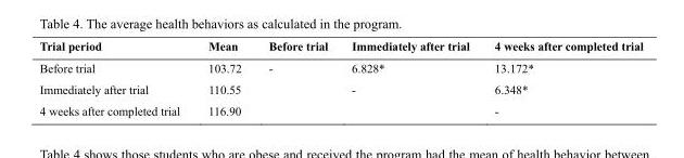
<table><thead><tr><td>Trial period</td><td>Mean</td><td>Before trial</td><td>Immediately after trial</td><td>4 weeks after completed trial</td></tr></thead><tbody><tr><td>Before trial</td><td>103.72</td><td>-</td><td>6.828*</td><td>13.172*</td></tr><tr><td>Immediately after trial</td><td>110.55</td><td></td><td>-</td><td>6.348*</td></tr><tr><td>4 weeks after completed trial</td><td>116.90</td><td></td><td></td><td>-</td></tr></tbody></table>